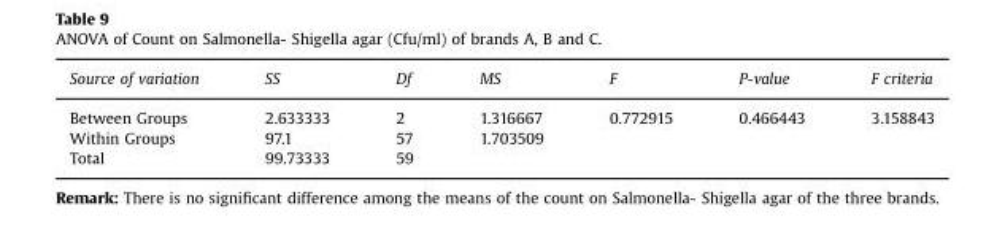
<table><thead><tr><td>Source of variation</td><td>SS</td><td>Df</td><td>MS</td><td>F</td><td>P-value</td><td>F criteria</td></tr></thead><tbody><tr><td>Between Groups</td><td>2.633333</td><td>2</td><td>1.316667</td><td>0.772915</td><td>0.466443</td><td>3.158843</td></tr><tr><td>Within Groups</td><td>97.1</td><td>57</td><td>1.703509</td><td></td><td></td><td></td></tr><tr><td>Total</td><td>99.73333</td><td>59</td><td></td><td></td><td></td><td></td></tr></tbody></table>